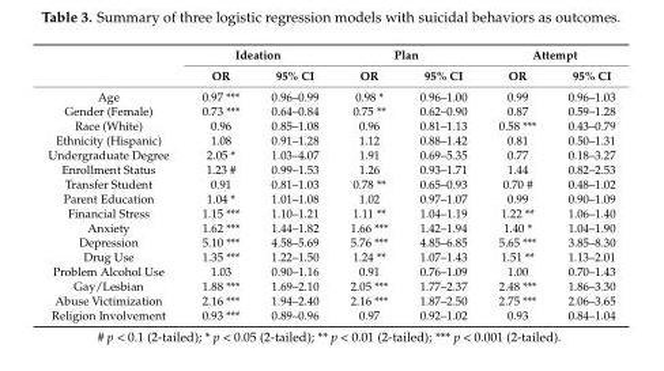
<table><thead><tr><td rowspan="2"></td><td colspan="2">Ideation</td><td colspan="2">Plan</td><td colspan="2">Attempt</td></tr><tr><td>OR</td><td>95% CI</td><td>OR</td><td>95% CI</td><td>OR</td><td>95% CI</td></tr></thead><tbody><tr><td>Age</td><td>0.97 ***</td><td>0.96–0.99</td><td>0.98 *</td><td>0.96–1.00</td><td>0.99</td><td>0.96–1.03</td></tr><tr><td>Gender (Female)</td><td>0.73 ***</td><td>0.64–0.84</td><td>0.75 **</td><td>0.62–0.90</td><td>0.87</td><td>0.59–1.28</td></tr><tr><td>Race (White)</td><td>0.96</td><td>0.85–1.08</td><td>0.96</td><td>0.81–1.13</td><td>0.58 ***</td><td>0.43–0.79</td></tr><tr><td>Ethnicity (Hispanic)</td><td>1.08</td><td>0.91–1.28</td><td>1.12</td><td>0.88–1.42</td><td>0.81</td><td>0.50–1.31</td></tr><tr><td>Undergraduate Degree</td><td>2.05 *</td><td>1.03–4.07</td><td>1.91</td><td>0.69–5.35</td><td>0.77</td><td>0.18–3.27</td></tr><tr><td>Enrollment Status</td><td>1.23 #</td><td>0.99–1.53</td><td>1.26</td><td>0.93–1.71</td><td>1.44</td><td>0.82–2.53</td></tr><tr><td>Transfer Student</td><td>0.91</td><td>0.81–1.03</td><td>0.78 **</td><td>0.65–0.93</td><td>0.70 #</td><td>0.48–1.02</td></tr><tr><td>Parent Education</td><td>1.04 *</td><td>1.01–1.08</td><td>1.02</td><td>0.97–1.07</td><td>0.99</td><td>0.90–1.09</td></tr><tr><td>Financial Stress</td><td>1.15 ***</td><td>1.10–1.21</td><td>1.11 **</td><td>1.04–1.19</td><td>1.22 **</td><td>1.06–1.40</td></tr><tr><td>Anxiety</td><td>1.62 ***</td><td>1.44–1.82</td><td>1.66 ***</td><td>1.42–1.94</td><td>1.40 *</td><td>1.04–1.90</td></tr><tr><td>Depression</td><td>5.10 ***</td><td>4.58–5.69</td><td>5.76 ***</td><td>4.85–6.85</td><td>5.65 ***</td><td>3.85–8.30</td></tr><tr><td>Drug Use</td><td>1.35 ***</td><td>1.22–1.50</td><td>1.24 **</td><td>1.07–1.43</td><td>1.51 **</td><td>1.13–2.01</td></tr><tr><td>Problem Alcohol Use</td><td>1.03</td><td>0.90–1.16</td><td>0.91</td><td>0.76–1.09</td><td>1.00</td><td>0.70–1.43</td></tr><tr><td>Gay/Lesbian</td><td>1.88 ***</td><td>1.69–2.10</td><td>2.05 ***</td><td>1.77–2.37</td><td>2.48 ***</td><td>1.86–3.30</td></tr><tr><td>Abuse Victimization</td><td>2.16 ***</td><td>1.94–2.40</td><td>2.16 ***</td><td>1.87–2.50</td><td>2.75 ***</td><td>2.06–3.65</td></tr><tr><td>Religion Involvement</td><td>0.93 ***</td><td>0.89–0.96</td><td>0.97</td><td>0.92–1.02</td><td>0.93</td><td>0.84–1.04</td></tr></tbody></table>